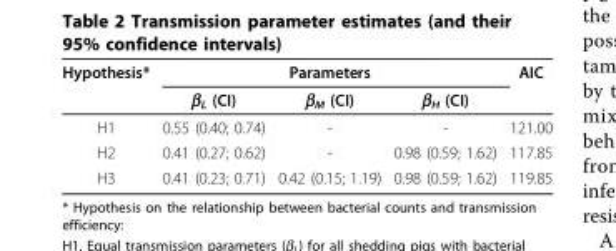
<table><thead><tr><td rowspan="2">Hypothesis*</td><td colspan="3">Parameters</td><td rowspan="2">AIC</td></tr><tr><td>β<sub>L</sub> (CI)</td><td>β<sub>M</sub> (CI)</td><td>β<sub>H</sub> (CI)</td></tr></thead><tbody><tr><td>H1</td><td>0.55 (0.40; 0.74)</td><td>-</td><td>-</td><td>121.00</td></tr><tr><td>H2</td><td>0.41 (0.27; 0.62)</td><td>-</td><td>0.98 (0.59; 1.62)</td><td>117.85</td></tr><tr><td>H3</td><td>0.41 (0.23; 0.71)</td><td>0.42 (0.15; 1.19)</td><td>0.98 (0.59; 1.62)</td><td>119.85</td></tr></tbody></table>